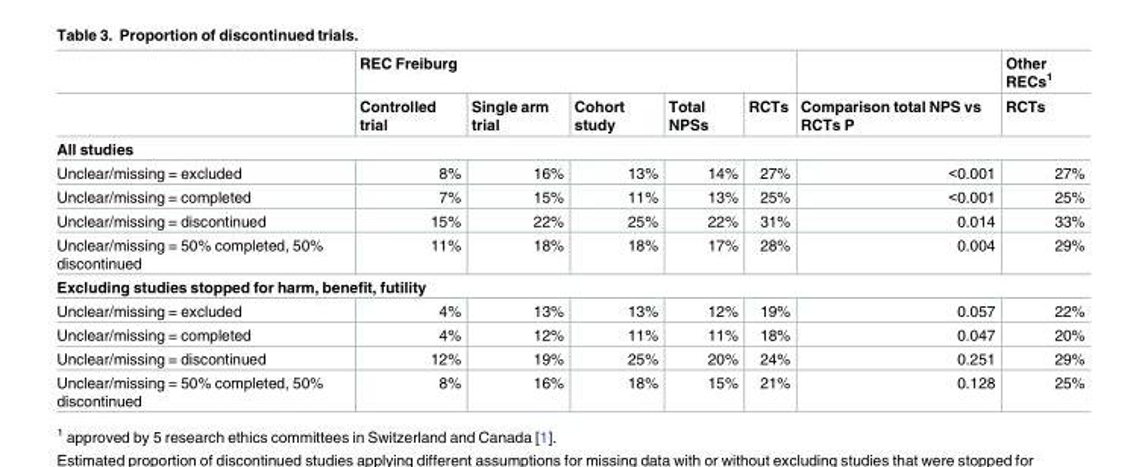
<table><thead><tr><td rowspan="2"></td><td colspan="5">REC Freiburg</td><td rowspan="2">Comparison total NPS vs RCTs P</td><td rowspan="2">Other RECs<sup>1</sup> RCTs</td></tr><tr><td>Controlled trial</td><td>Single arm trial</td><td>Cohort study</td><td>Total NPSs</td><td>RCTs</td></tr></thead><tbody><tr><td colspan="8">All studies</td></tr><tr><td>Unclear/missing = excluded</td><td>8%</td><td>16%</td><td>13%</td><td>14%</td><td>27%</td><td>&lt;0.001</td><td>27%</td></tr><tr><td>Unclear/missing = completed</td><td>7%</td><td>15%</td><td>11%</td><td>13%</td><td>25%</td><td>&lt;0.001</td><td>25%</td></tr><tr><td>Unclear/missing = discontinued</td><td>15%</td><td>22%</td><td>25%</td><td>22%</td><td>31%</td><td>0.014</td><td>33%</td></tr><tr><td>Unclear/missing = 50% completed, 50% discontinued</td><td>11%</td><td>18%</td><td>18%</td><td>17%</td><td>28%</td><td>0.004</td><td>29%</td></tr><tr><td colspan="8">Excluding studies stopped for harm, benefit, futility</td></tr><tr><td>Unclear/missing = excluded</td><td>4%</td><td>13%</td><td>13%</td><td>12%</td><td>19%</td><td>0.057</td><td>22%</td></tr><tr><td>Unclear/missing = completed</td><td>4%</td><td>12%</td><td>11%</td><td>11%</td><td>18%</td><td>0.047</td><td>20%</td></tr><tr><td>Unclear/missing = discontinued</td><td>12%</td><td>19%</td><td>25%</td><td>20%</td><td>24%</td><td>0.251</td><td>29%</td></tr><tr><td>Unclear/missing = 50% completed, 50% discontinued</td><td>8%</td><td>16%</td><td>18%</td><td>15%</td><td>21%</td><td>0.128</td><td>25%</td></tr></tbody></table>